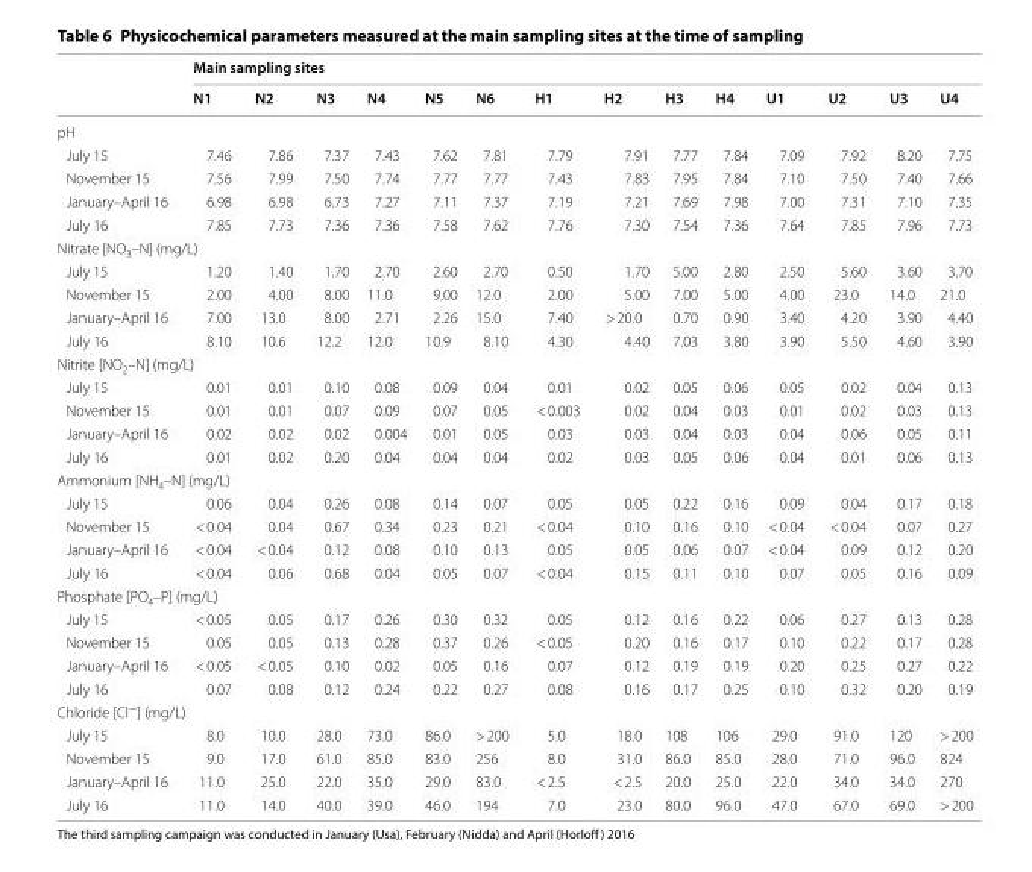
<table><thead><tr><td rowspan="2"></td><td colspan="14">Main sampling sites</td></tr><tr><td>N1</td><td>N2</td><td>N3</td><td>N4</td><td>N5</td><td>N6</td><td>H1</td><td>H2</td><td>H3</td><td>H4</td><td>U1</td><td>U2</td><td>U3</td><td>U4</td></tr></thead><tbody><tr><td colspan="15">pH</td></tr><tr><td>July 15</td><td>7.46</td><td>7.86</td><td>7.37</td><td>7.43</td><td>7.62</td><td>7.81</td><td>7.79</td><td>7.91</td><td>7.77</td><td>7.84</td><td>7.09</td><td>7.92</td><td>8.20</td><td>7.75</td></tr><tr><td>November 15</td><td>7.56</td><td>7.99</td><td>7.50</td><td>7.74</td><td>7.77</td><td>7.77</td><td>7.43</td><td>7.83</td><td>7.95</td><td>7.84</td><td>7.10</td><td>7.50</td><td>7.40</td><td>7.66</td></tr><tr><td>January–April 16</td><td>6.98</td><td>6.98</td><td>6.73</td><td>7.27</td><td>7.11</td><td>7.37</td><td>7.19</td><td>7.21</td><td>7.69</td><td>7.98</td><td>7.00</td><td>7.31</td><td>7.10</td><td>7.35</td></tr><tr><td>July 16</td><td>7.85</td><td>7.73</td><td>7.36</td><td>7.36</td><td>7.58</td><td>7.62</td><td>7.76</td><td>7.30</td><td>7.54</td><td>7.36</td><td>7.64</td><td>7.85</td><td>7.96</td><td>7.73</td></tr><tr><td colspan="15">Nitrate [NO<sub>3</sub>–N] (mg/L)</td></tr><tr><td>July 15</td><td>1.20</td><td>1.40</td><td>1.70</td><td>2.70</td><td>2.60</td><td>2.70</td><td>0.50</td><td>1.70</td><td>5.00</td><td>2.80</td><td>2.50</td><td>5.60</td><td>3.60</td><td>3.70</td></tr><tr><td>November 15</td><td>2.00</td><td>4.00</td><td>8.00</td><td>11.0</td><td>9.00</td><td>12.0</td><td>2.00</td><td>5.00</td><td>7.00</td><td>5.00</td><td>4.00</td><td>23.0</td><td>14.0</td><td>21.0</td></tr><tr><td>January–April 16</td><td>7.00</td><td>13.0</td><td>8.00</td><td>2.71</td><td>2.26</td><td>15.0</td><td>7.40</td><td>&gt; 20.0</td><td>0.70</td><td>0.90</td><td>3.40</td><td>4.20</td><td>3.90</td><td>4.40</td></tr><tr><td>July 16</td><td>8.10</td><td>10.6</td><td>12.2</td><td>12.0</td><td>10.9</td><td>8.10</td><td>4.30</td><td>4.40</td><td>7.03</td><td>3.80</td><td>3.90</td><td>5.50</td><td>4.60</td><td>3.90</td></tr><tr><td colspan="15">Nitrite [NO<sub>2</sub>–N] (mg/L)</td></tr><tr><td>July 15</td><td>0.01</td><td>0.01</td><td>0.10</td><td>0.08</td><td>0.09</td><td>0.04</td><td>0.01</td><td>0.02</td><td>0.05</td><td>0.06</td><td>0.05</td><td>0.02</td><td>0.04</td><td>0.13</td></tr><tr><td>November 15</td><td>0.01</td><td>0.01</td><td>0.07</td><td>0.09</td><td>0.07</td><td>0.05</td><td>&lt; 0.003</td><td>0.02</td><td>0.04</td><td>0.03</td><td>0.01</td><td>0.02</td><td>0.03</td><td>0.13</td></tr><tr><td>January–April 16</td><td>0.02</td><td>0.02</td><td>0.02</td><td>0.004</td><td>0.01</td><td>0.05</td><td>0.03</td><td>0.03</td><td>0.04</td><td>0.03</td><td>0.04</td><td>0.06</td><td>0.05</td><td>0.11</td></tr><tr><td>July 16</td><td>0.01</td><td>0.02</td><td>0.20</td><td>0.04</td><td>0.04</td><td>0.04</td><td>0.02</td><td>0.03</td><td>0.05</td><td>0.06</td><td>0.04</td><td>0.01</td><td>0.06</td><td>0.13</td></tr><tr><td colspan="15">Ammonium [NH<sub>4</sub>–N] (mg/L)</td></tr><tr><td>July 15</td><td>0.06</td><td>0.04</td><td>0.26</td><td>0.08</td><td>0.14</td><td>0.07</td><td>0.05</td><td>0.05</td><td>0.22</td><td>0.16</td><td>0.09</td><td>0.04</td><td>0.17</td><td>0.18</td></tr><tr><td>November 15</td><td>&lt; 0.04</td><td>0.04</td><td>0.67</td><td>0.34</td><td>0.23</td><td>0.21</td><td>&lt; 0.04</td><td>0.10</td><td>0.16</td><td>0.10</td><td>&lt; 0.04</td><td>&lt; 0.04</td><td>0.07</td><td>0.27</td></tr><tr><td>January–April 16</td><td>&lt; 0.04</td><td>&lt; 0.04</td><td>0.12</td><td>0.08</td><td>0.10</td><td>0.13</td><td>0.05</td><td>0.05</td><td>0.06</td><td>0.07</td><td>&lt; 0.04</td><td>0.09</td><td>0.12</td><td>0.20</td></tr><tr><td>July 16</td><td>&lt; 0.04</td><td>0.06</td><td>0.68</td><td>0.04</td><td>0.05</td><td>0.07</td><td>&lt; 0.04</td><td>0.15</td><td>0.11</td><td>0.10</td><td>0.07</td><td>0.05</td><td>0.16</td><td>0.09</td></tr><tr><td colspan="15">Phosphate [PO<sub>4</sub>–P] (mg/L)</td></tr><tr><td>July 15</td><td>&lt; 0.05</td><td>0.05</td><td>0.17</td><td>0.26</td><td>0.30</td><td>0.32</td><td>0.05</td><td>0.12</td><td>0.16</td><td>0.22</td><td>0.06</td><td>0.27</td><td>0.13</td><td>0.28</td></tr><tr><td>November 15</td><td>0.05</td><td>0.05</td><td>0.13</td><td>0.28</td><td>0.37</td><td>0.26</td><td>&lt; 0.05</td><td>0.20</td><td>0.16</td><td>0.17</td><td>0.10</td><td>0.22</td><td>0.17</td><td>0.28</td></tr><tr><td>January–April 16</td><td>&lt; 0.05</td><td>&lt; 0.05</td><td>0.10</td><td>0.02</td><td>0.05</td><td>0.16</td><td>0.07</td><td>0.12</td><td>0.19</td><td>0.19</td><td>0.20</td><td>0.25</td><td>0.27</td><td>0.22</td></tr><tr><td>July 16</td><td>0.07</td><td>0.08</td><td>0.12</td><td>0.24</td><td>0.22</td><td>0.27</td><td>0.08</td><td>0.16</td><td>0.17</td><td>0.25</td><td>0.10</td><td>0.32</td><td>0.20</td><td>0.19</td></tr><tr><td colspan="15">Chloride [Cl<sup>−</sup>] (mg/L)</td></tr><tr><td>July 15</td><td>8.0</td><td>10.0</td><td>28.0</td><td>73.0</td><td>86.0</td><td>&gt; 200</td><td>5.0</td><td>18.0</td><td>108</td><td>106</td><td>29.0</td><td>91.0</td><td>120</td><td>&gt; 200</td></tr><tr><td>November 15</td><td>9.0</td><td>17.0</td><td>61.0</td><td>85.0</td><td>83.0</td><td>256</td><td>8.0</td><td>31.0</td><td>86.0</td><td>85.0</td><td>28.0</td><td>71.0</td><td>96.0</td><td>824</td></tr><tr><td>January–April 16</td><td>11.0</td><td>25.0</td><td>22.0</td><td>35.0</td><td>29.0</td><td>83.0</td><td>&lt; 2.5</td><td>&lt; 2.5</td><td>20.0</td><td>25.0</td><td>22.0</td><td>34.0</td><td>34.0</td><td>270</td></tr><tr><td>July 16</td><td>11.0</td><td>14.0</td><td>40.0</td><td>39.0</td><td>46.0</td><td>194</td><td>7.0</td><td>23.0</td><td>80.0</td><td>96.0</td><td>47.0</td><td>67.0</td><td>69.0</td><td>&gt; 200</td></tr></tbody></table>